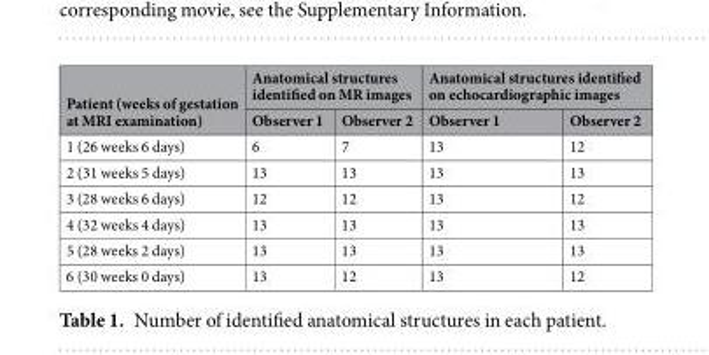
<table><thead><tr><td rowspan="2">Patient (weeks of gestation at MRI examination)</td><td colspan="2">Anatomical structures identified on MR images</td><td colspan="2">Anatomical structures identified on echocardiographic images</td></tr><tr><td>Observer 1</td><td>Observer 2</td><td>Observer 1</td><td>Observer 2</td></tr></thead><tbody><tr><td>1 (26 weeks 6 days)</td><td>6</td><td>7</td><td>13</td><td>12</td></tr><tr><td>2 (31 weeks 5 days)</td><td>13</td><td>13</td><td>13</td><td>13</td></tr><tr><td>3 (28 weeks 6 days)</td><td>12</td><td>12</td><td>13</td><td>12</td></tr><tr><td>4 (32 weeks 4 days)</td><td>13</td><td>13</td><td>13</td><td>13</td></tr><tr><td>5 (28 weeks 2 days)</td><td>13</td><td>13</td><td>13</td><td>13</td></tr><tr><td>6 (30 weeks 0 days)</td><td>13</td><td>12</td><td>13</td><td>12</td></tr></tbody></table>